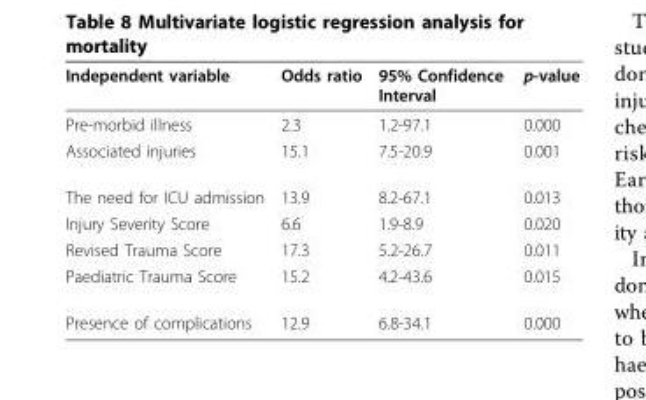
<table><thead><tr><td>Independent variable</td><td>Odds ratio</td><td>95% Confidence Interval</td><td>p-value</td></tr></thead><tbody><tr><td>Pre-morbid illness</td><td>2.3</td><td>1.2-97.1</td><td>0.000</td></tr><tr><td>Associated injuries</td><td>15.1</td><td>7.5-20.9</td><td>0.001</td></tr><tr><td>The need for ICU admission</td><td>13.9</td><td>8.2-67.1</td><td>0.013</td></tr><tr><td>Injury Severity Score</td><td>6.6</td><td>1.9-8.9</td><td>0.020</td></tr><tr><td>Revised Trauma Score</td><td>17.3</td><td>5.2-26.7</td><td>0.011</td></tr><tr><td>Paediatric Trauma Score</td><td>15.2</td><td>4.2-43.6</td><td>0.015</td></tr><tr><td>Presence of complications</td><td>12.9</td><td>6.8-34.1</td><td>0.000</td></tr></tbody></table>